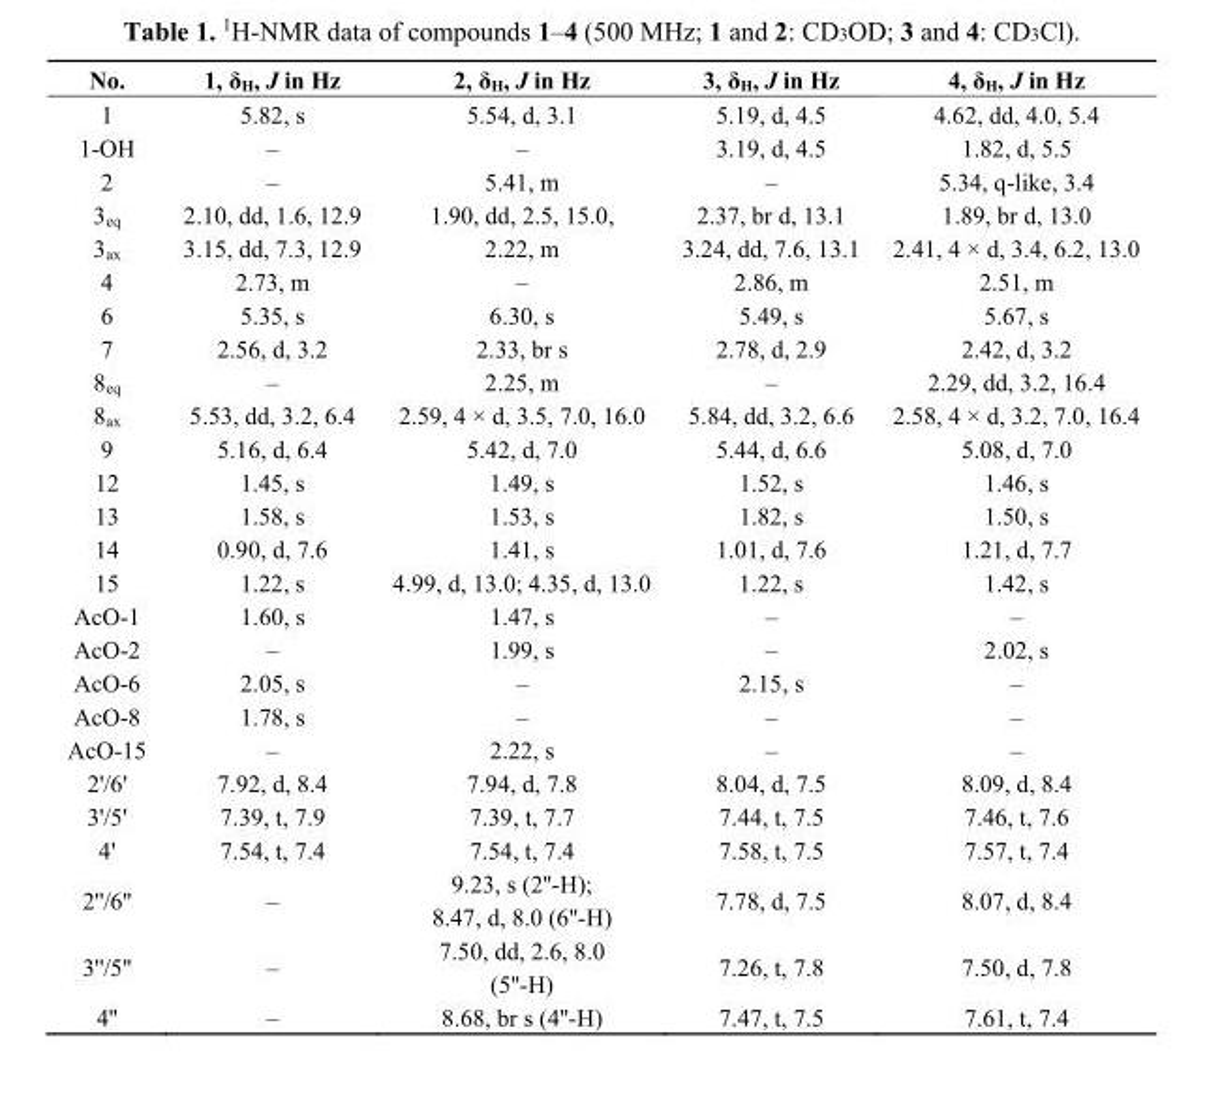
<table><thead><tr><td>No.</td><td>1, δ<sub>H</sub>, J in Hz</td><td>2, δ<sub>H</sub>, J in Hz</td><td>3, δ<sub>H</sub>, J in Hz</td><td>4, δ<sub>H</sub>, J in Hz</td></tr></thead><tbody><tr><td>1</td><td>5.82, s</td><td>5.54, d, 3.1</td><td>5.19, d, 4.5</td><td>4.62, dd, 4.0, 5.4</td></tr><tr><td>1-OH</td><td>–</td><td>–</td><td>3.19, d, 4.5</td><td>1.82, d, 5.5</td></tr><tr><td>2</td><td>–</td><td>5.41, m</td><td>–</td><td>5.34, q-like, 3.4</td></tr><tr><td>3<sub>eq</sub></td><td>2.10, dd, 1.6, 12.9</td><td>1.90, dd, 2.5, 15.0,</td><td>2.37, br d, 13.1</td><td>1.89, br d, 13.0</td></tr><tr><td>3<sub>ax</sub></td><td>3.15, dd, 7.3, 12.9</td><td>2.22, m</td><td>3.24, dd, 7.6, 13.1</td><td>2.41, 4 × d, 3.4, 6.2, 13.0</td></tr><tr><td>4</td><td>2.73, m</td><td>–</td><td>2.86, m</td><td>2.51, m</td></tr><tr><td>6</td><td>5.35, s</td><td>6.30, s</td><td>5.49, s</td><td>5.67, s</td></tr><tr><td>7</td><td>2.56, d, 3.2</td><td>2.33, br s</td><td>2.78, d, 2.9</td><td>2.42, d, 3.2</td></tr><tr><td>8<sub>eq</sub></td><td>–</td><td>2.25, m</td><td>–</td><td>2.29, dd, 3.2, 16.4</td></tr><tr><td>8<sub>ax</sub></td><td>5.53, dd, 3.2, 6.4</td><td>2.59, 4 × d, 3.5, 7.0, 16.0</td><td>5.84, dd, 3.2, 6.6</td><td>2.58, 4 × d, 3.2, 7.0, 16.4</td></tr><tr><td>9</td><td>5.16, d, 6.4</td><td>5.42, d, 7.0</td><td>5.44, d, 6.6</td><td>5.08, d, 7.0</td></tr><tr><td>12</td><td>1.45, s</td><td>1.49, s</td><td>1.52, s</td><td>1.46, s</td></tr><tr><td>13</td><td>1.58, s</td><td>1.53, s</td><td>1.82, s</td><td>1.50, s</td></tr><tr><td>14</td><td>0.90, d, 7.6</td><td>1.41, s</td><td>1.01, d, 7.6</td><td>1.21, d, 7.7</td></tr><tr><td>15</td><td>1.22, s</td><td>4.99, d, 13.0; 4.35, d, 13.0</td><td>1.22, s</td><td>1.42, s</td></tr><tr><td>AcO-1</td><td>1.60, s</td><td>1.47, s</td><td>–</td><td>–</td></tr><tr><td>AcO-2</td><td>–</td><td>1.99, s</td><td>–</td><td>2.02, s</td></tr><tr><td>AcO-6</td><td>2.05, s</td><td>–</td><td>2.15, s</td><td>–</td></tr><tr><td>AcO-8</td><td>1.78, s</td><td>–</td><td>–</td><td>–</td></tr><tr><td>AcO-15</td><td>–</td><td>2.22, s</td><td>–</td><td>–</td></tr><tr><td>2&#x27;/6&#x27;</td><td>7.92, d, 8.4</td><td>7.94, d, 7.8</td><td>8.04, d, 7.5</td><td>8.09, d, 8.4</td></tr><tr><td>3&#x27;/5&#x27;</td><td>7.39, t, 7.9</td><td>7.39, t, 7.7</td><td>7.44, t, 7.5</td><td>7.46, t, 7.6</td></tr><tr><td>4&#x27;</td><td>7.54, t, 7.4</td><td>7.54, t, 7.4</td><td>7.58, t, 7.5</td><td>7.57, t, 7.4</td></tr><tr><td>2&#x27;&#x27;/6&#x27;&#x27;</td><td>–</td><td>9.23, s (2&#x27;&#x27;-H); 8.47, d, 8.0 (6&#x27;&#x27;-H)</td><td>7.78, d, 7.5</td><td>8.07, d, 8.4</td></tr><tr><td>3&#x27;&#x27;/5&#x27;&#x27;</td><td>–</td><td>7.50, dd, 2.6, 8.0 (5&#x27;&#x27;-H)</td><td>7.26, t, 7.8</td><td>7.50, d, 7.8</td></tr><tr><td>4&#x27;&#x27;</td><td>–</td><td>8.68, br s (4&#x27;&#x27;-H)</td><td>7.47, t, 7.5</td><td>7.61, t, 7.4</td></tr></tbody></table>